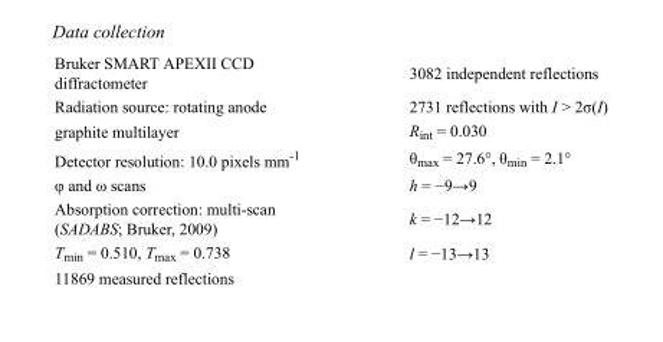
<table><tbody><tr><td>Bruker SMART APEXII CCD diffractometer</td><td>3082 independent reflections</td></tr><tr><td>Radiation source: rotating anode</td><td>2731 reflections with I &gt; 2σ(I)</td></tr><tr><td>graphite multilayer</td><td>R<sub>int</sub> = 0.030</td></tr><tr><td>Detector resolution: 10.0 pixels mm<sup>-1</sup></td><td>θ<sub>max</sub> = 27.6°, θ<sub>min</sub> = 2.1°</td></tr><tr><td>φ and ω scans</td><td>h = −9→9</td></tr><tr><td>Absorption correction: multi-scan (SADABS; Bruker, 2009)</td><td>k = −12→12</td></tr><tr><td>T<sub>min</sub> = 0.510, T<sub>max</sub> = 0.738</td><td>l = −13→13</td></tr><tr><td>11869 measured reflections</td><td></td></tr></tbody></table>